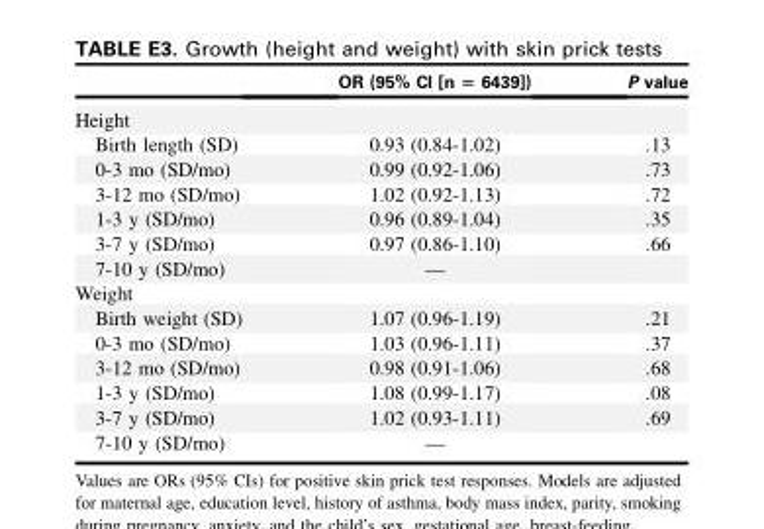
<table><thead><tr><td></td><td>OR (95% CI [n = 6439])</td><td>P value</td></tr></thead><tbody><tr><td colspan="3">Height</td></tr><tr><td>Birth length (SD)</td><td>0.93 (0.84-1.02)</td><td>.13</td></tr><tr><td>0-3 mo (SD/mo)</td><td>0.99 (0.92-1.06)</td><td>.73</td></tr><tr><td>3-12 mo (SD/mo)</td><td>1.02 (0.92-1.13)</td><td>.72</td></tr><tr><td>1-3 y (SD/mo)</td><td>0.96 (0.89-1.04)</td><td>.35</td></tr><tr><td>3-7 y (SD/mo)</td><td>0.97 (0.86-1.10)</td><td>.66</td></tr><tr><td>7-10 y (SD/mo)</td><td>—</td><td></td></tr><tr><td colspan="3">Weight</td></tr><tr><td>Birth weight (SD)</td><td>1.07 (0.96-1.19)</td><td>.21</td></tr><tr><td>0-3 mo (SD/mo)</td><td>1.03 (0.96-1.11)</td><td>.37</td></tr><tr><td>3-12 mo (SD/mo)</td><td>0.98 (0.91-1.06)</td><td>.68</td></tr><tr><td>1-3 y (SD/mo)</td><td>1.08 (0.99-1.17)</td><td>.08</td></tr><tr><td>3-7 y (SD/mo)</td><td>1.02 (0.93-1.11)</td><td>.69</td></tr><tr><td>7-10 y (SD/mo)</td><td>—</td><td></td></tr></tbody></table>